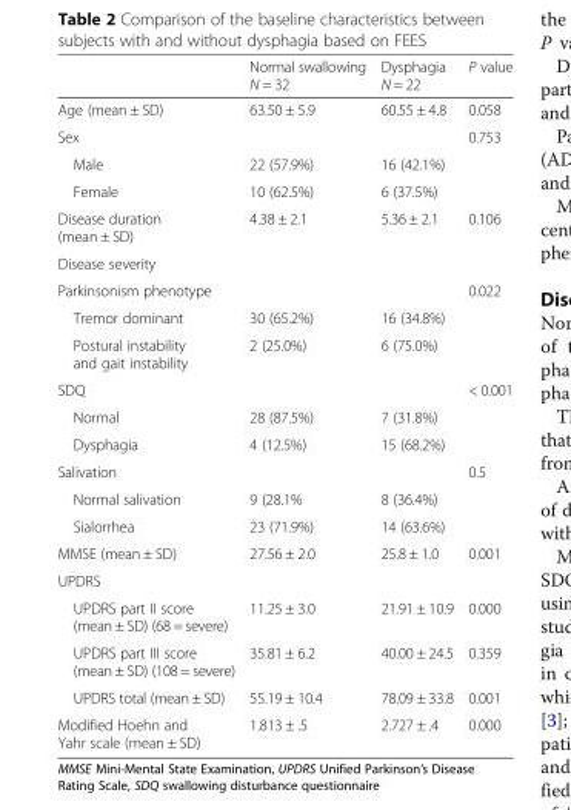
<table><thead><tr><td></td><td>Normal swallowing N = 32</td><td>Dysphagia N = 22</td><td>P value</td></tr></thead><tbody><tr><td>Age (mean ± SD)</td><td>63.50 ± 5.9</td><td>60.55 ± 4.8</td><td>0.058</td></tr><tr><td>Sex</td><td></td><td></td><td>0.753</td></tr><tr><td>Male</td><td>22 (57.9%)</td><td>16 (42.1%)</td><td></td></tr><tr><td>Female</td><td>10 (62.5%)</td><td>6 (37.5%)</td><td></td></tr><tr><td>Disease duration (mean ± SD)</td><td>4.38 ± 2.1</td><td>5.36 ± 2.1</td><td>0.106</td></tr><tr><td colspan="4">Disease severity</td></tr><tr><td>Parkinsonism phenotype</td><td></td><td></td><td>0.022</td></tr><tr><td>Tremor dominant</td><td>30 (65.2%)</td><td>16 (34.8%)</td><td></td></tr><tr><td>Postural instability and gait instability</td><td>2 (25.0%)</td><td>6 (75.0%)</td><td></td></tr><tr><td>SDQ</td><td></td><td></td><td>&lt; 0.001</td></tr><tr><td>Normal</td><td>28 (87.5%)</td><td>7 (31.8%)</td><td></td></tr><tr><td>Dysphagia</td><td>4 (12.5%)</td><td>15 (68.2%)</td><td></td></tr><tr><td>Salivation</td><td></td><td></td><td>0.5</td></tr><tr><td>Normal salivation</td><td>9 (28.1%</td><td>8 (36.4%)</td><td></td></tr><tr><td>Sialorrhea</td><td>23 (71.9%)</td><td>14 (63.6%)</td><td></td></tr><tr><td>MMSE (mean ± SD)</td><td>27.56 ± 2.0</td><td>25.8 ± 1.0</td><td>0.001</td></tr><tr><td colspan="4">UPDRS</td></tr><tr><td>UPDRS part II score (mean ± SD) (68 = severe)</td><td>11.25 ± 3.0</td><td>21.91 ± 10.9</td><td>0.000</td></tr><tr><td>UPDRS part III score (mean ± SD) (108 = severe)</td><td>35.81 ± 6.2</td><td>40.00 ± 24.5</td><td>0.359</td></tr><tr><td>UPDRS total (mean ± SD)</td><td>55.19 ± 10.4</td><td>78.09 ± 33.8</td><td>0.001</td></tr><tr><td>Modified Hoehn and Yahr scale (mean ± SD)</td><td>1.813 ± .5</td><td>2.727 ± .4</td><td>0.000</td></tr></tbody></table>